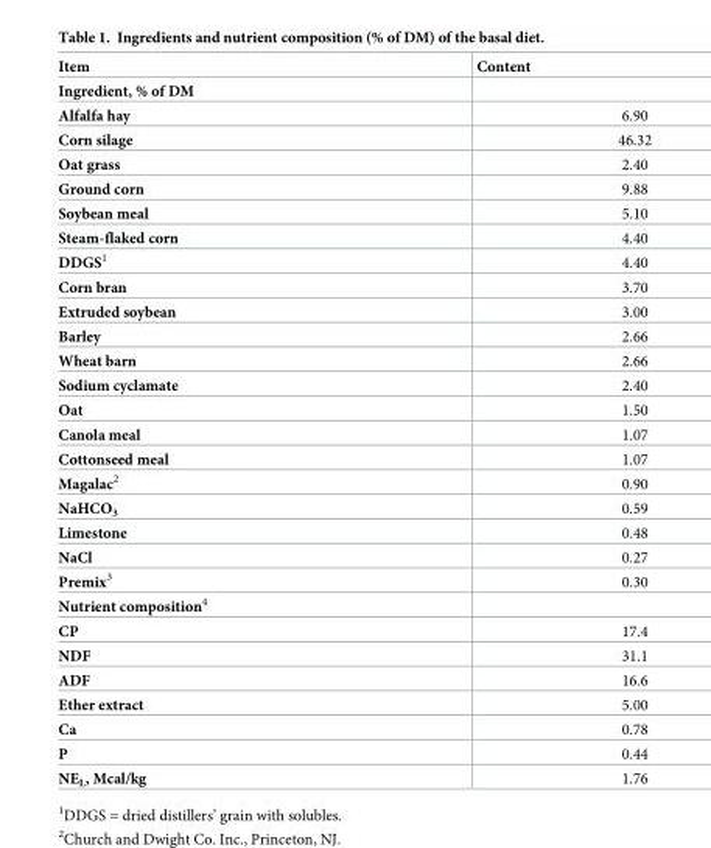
<table><thead><tr><td>Item</td><td>Content</td></tr></thead><tbody><tr><td colspan="2">Ingredient, % of DM</td></tr><tr><td>Alfalfa hay</td><td>6.90</td></tr><tr><td>Corn silage</td><td>46.32</td></tr><tr><td>Oat grass</td><td>2.40</td></tr><tr><td>Ground corn</td><td>9.88</td></tr><tr><td>Soybean meal</td><td>5.10</td></tr><tr><td>Steam-flaked corn</td><td>4.40</td></tr><tr><td>DDGS<sup>1</sup></td><td>4.40</td></tr><tr><td>Corn bran</td><td>3.70</td></tr><tr><td>Extruded soybean</td><td>3.00</td></tr><tr><td>Barley</td><td>2.66</td></tr><tr><td>Wheat barn</td><td>2.66</td></tr><tr><td>Sodium cyclamate</td><td>2.40</td></tr><tr><td>Oat</td><td>1.50</td></tr><tr><td>Canola meal</td><td>1.07</td></tr><tr><td>Cottonseed meal</td><td>1.07</td></tr><tr><td>Magalac<sup>2</sup></td><td>0.90</td></tr><tr><td>NaHCO<sub>3</sub></td><td>0.59</td></tr><tr><td>Limestone</td><td>0.48</td></tr><tr><td>NaCl</td><td>0.27</td></tr><tr><td>Premix<sup>3</sup></td><td>0.30</td></tr><tr><td colspan="2">Nutrient composition<sup>4</sup></td></tr><tr><td>CP</td><td>17.4</td></tr><tr><td>NDF</td><td>31.1</td></tr><tr><td>ADF</td><td>16.6</td></tr><tr><td>Ether extract</td><td>5.00</td></tr><tr><td>Ca</td><td>0.78</td></tr><tr><td>P</td><td>0.44</td></tr><tr><td>NE<sub>L</sub>, Mcal/kg</td><td>1.76</td></tr></tbody></table>